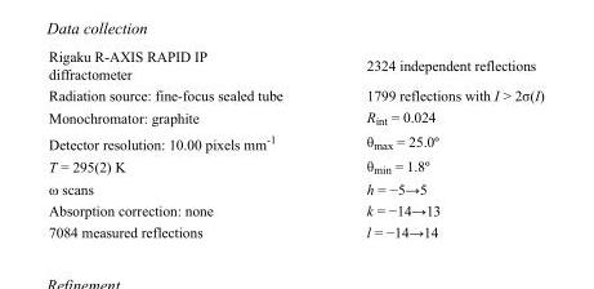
<table><tbody><tr><td>Rigaku R-AXIS RAPID IP diffractometer</td><td>2324 independent reflections</td></tr><tr><td>Radiation source: fine-focus sealed tube</td><td>1799 reflections with I &gt; 2σ(I)</td></tr><tr><td>Monochromator: graphite</td><td>R<sub>int</sub> = 0.024</td></tr><tr><td>Detector resolution: 10.00 pixels mm<sup>-1</sup></td><td>θ<sub>max</sub> = 25.0º</td></tr><tr><td>T = 295(2) K</td><td>θ<sub>min</sub> = 1.8º</td></tr><tr><td>ω scans</td><td>h = −5→5</td></tr><tr><td>Absorption correction: none</td><td>k = −14→13</td></tr><tr><td>7084 measured reflections</td><td>l = −14→14</td></tr></tbody></table>